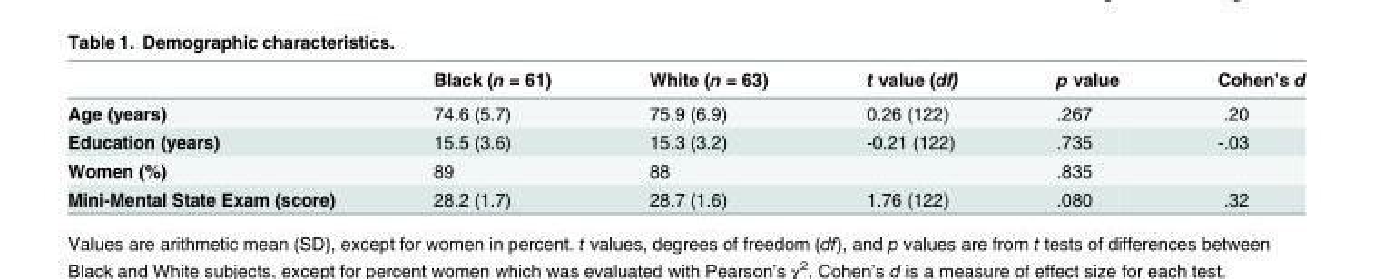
<table><thead><tr><td></td><td>Black (n = 61)</td><td>White (n = 63)</td><td>t value (df)</td><td>p value</td><td>Cohen’s d</td></tr></thead><tbody><tr><td>Age (years)</td><td>74.6 (5.7)</td><td>75.9 (6.9)</td><td>0.26 (122)</td><td>.267</td><td>.20</td></tr><tr><td>Education (years)</td><td>15.5 (3.6)</td><td>15.3 (3.2)</td><td>-0.21 (122)</td><td>.735</td><td>-.03</td></tr><tr><td>Women (%)</td><td>89</td><td>88</td><td></td><td>.835</td><td></td></tr><tr><td>Mini-Mental State Exam (score)</td><td>28.2 (1.7)</td><td>28.7 (1.6)</td><td>1.76 (122)</td><td>.080</td><td>.32</td></tr></tbody></table>